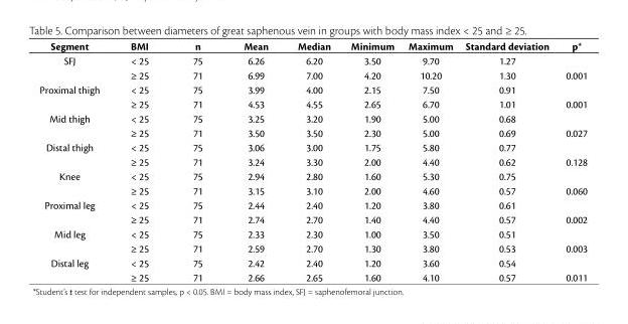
<table><thead><tr><td>Segment</td><td>BMI</td><td>n</td><td>Mean</td><td>Median</td><td>Minimum</td><td>Maximum</td><td>Standard deviation</td><td>p*</td></tr></thead><tbody><tr><td rowspan="2">SFJ</td><td>&lt; 25</td><td>75</td><td>6.26</td><td>6.20</td><td>3.50</td><td>9.70</td><td>1.27</td><td></td></tr><tr><td>≥ 25</td><td>71</td><td>6.99</td><td>7.00</td><td>4.20</td><td>10.20</td><td>1.30</td><td>0.001</td></tr><tr><td rowspan="2">Proximal thigh</td><td>&lt; 25</td><td>75</td><td>3.99</td><td>4.00</td><td>2.15</td><td>7.50</td><td>0.91</td><td></td></tr><tr><td>≥ 25</td><td>71</td><td>4.53</td><td>4.55</td><td>2.65</td><td>6.70</td><td>1.01</td><td>0.001</td></tr><tr><td rowspan="2">Mid thigh</td><td>&lt; 25</td><td>75</td><td>3.25</td><td>3.20</td><td>1.90</td><td>5.00</td><td>0.68</td><td></td></tr><tr><td>≥ 25</td><td>71</td><td>3.50</td><td>3.50</td><td>2.30</td><td>5.00</td><td>0.69</td><td>0.027</td></tr><tr><td rowspan="2">Distal thigh</td><td>&lt; 25</td><td>75</td><td>3.06</td><td>3.00</td><td>1.75</td><td>5.80</td><td>0.77</td><td></td></tr><tr><td>≥ 25</td><td>71</td><td>3.24</td><td>3.30</td><td>2.00</td><td>4.40</td><td>0.62</td><td>0.128</td></tr><tr><td rowspan="2">Knee</td><td>&lt; 25</td><td>75</td><td>2.94</td><td>2.80</td><td>1.60</td><td>5.30</td><td>0.75</td><td></td></tr><tr><td>≥ 25</td><td>71</td><td>3.15</td><td>3.10</td><td>2.00</td><td>4.60</td><td>0.57</td><td>0.060</td></tr><tr><td rowspan="2">Proximal leg</td><td>&lt; 25</td><td>75</td><td>2.44</td><td>2.40</td><td>1.20</td><td>3.80</td><td>0.61</td><td></td></tr><tr><td>≥ 25</td><td>71</td><td>2.74</td><td>2.70</td><td>1.40</td><td>4.40</td><td>0.57</td><td>0.002</td></tr><tr><td rowspan="2">Mid leg</td><td>&lt; 25</td><td>75</td><td>2.33</td><td>2.30</td><td>1.00</td><td>3.50</td><td>0.51</td><td></td></tr><tr><td>≥ 25</td><td>71</td><td>2.59</td><td>2.70</td><td>1.30</td><td>3.80</td><td>0.53</td><td>0.003</td></tr><tr><td rowspan="2">Distal leg</td><td>&lt; 25</td><td>75</td><td>2.42</td><td>2.40</td><td>1.20</td><td>3.60</td><td>0.54</td><td></td></tr><tr><td>≥ 25</td><td>71</td><td>2.66</td><td>2.65</td><td>1.60</td><td>4.10</td><td>0.57</td><td>0.011</td></tr></tbody></table>